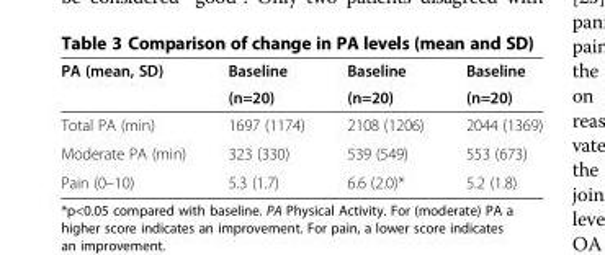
<table><thead><tr><td rowspan="2">PA (mean, SD)</td><td rowspan="2">Baseline (n=20)</td><td rowspan="2">Baseline (n=20)</td><td rowspan="2">Baseline (n=20)</td></tr><tr></tr></thead><tbody><tr><td>Total PA (min)</td><td>1697 (1174)</td><td>2108 (1206)</td><td>2044 (1369)</td></tr><tr><td>Moderate PA (min)</td><td>323 (330)</td><td>539 (549)</td><td>553 (673)</td></tr><tr><td>Pain (0–10)</td><td>5.3 (1.7)</td><td>6.6 (2.0)*</td><td>5.2 (1.8)</td></tr></tbody></table>